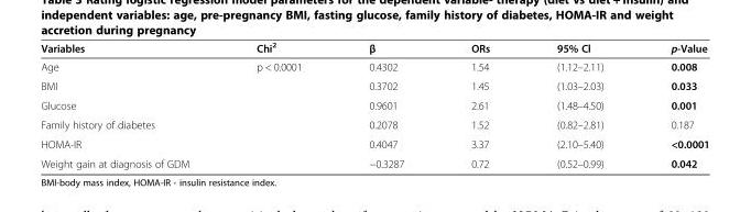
<table><thead><tr><td>Variables</td><td>Chi<sup>2</sup></td><td>β</td><td>ORs</td><td>95% Cl</td><td>p-Value</td></tr></thead><tbody><tr><td>Age</td><td>p &lt; 0.0001</td><td>0.4302</td><td>1.54</td><td>(1.12–2.11)</td><td>0.008</td></tr><tr><td>BMI</td><td></td><td>0.3702</td><td>1.45</td><td>(1.03–2.03)</td><td>0.033</td></tr><tr><td>Glucose</td><td></td><td>0.9601</td><td>2.61</td><td>(1.48–4.50)</td><td>0.001</td></tr><tr><td>Family history of diabetes</td><td></td><td>0.2078</td><td>1.52</td><td>(0.82–2.81)</td><td>0.187</td></tr><tr><td>HOMA-IR</td><td></td><td>0.4047</td><td>3.37</td><td>(2.10–5.40)</td><td>&lt;0.0001</td></tr><tr><td>Weight gain at diagnosis of GDM</td><td></td><td>−0.3287</td><td>0.72</td><td>(0.52–0.99)</td><td>0.042</td></tr></tbody></table>